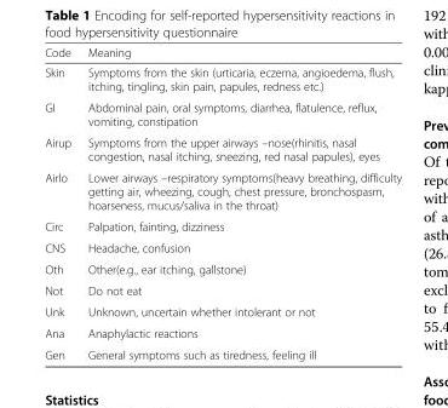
<table><thead><tr><td>Code</td><td>Meaning</td></tr></thead><tbody><tr><td>Skin</td><td>Symptoms from the skin (urticaria, eczema, angioedema, flush, itching, tingling, skin pain, papules, redness etc.)</td></tr><tr><td>GI</td><td>Abdominal pain, oral symptoms, diarrhea, flatulence, reflux, vomiting, constipation</td></tr><tr><td>Airup</td><td>Symptoms from the upper airways –nose(rhinitis, nasal congestion, nasal itching, sneezing, red nasal papules), eyes</td></tr><tr><td>Airlo</td><td>Lower airways –respiratory symptoms(heavy breathing, difficulty getting air, wheezing, cough, chest pressure, bronchospasm, hoarseness, mucus/saliva in the throat)</td></tr><tr><td>Circ</td><td>Palpation, fainting, dizziness</td></tr><tr><td>CNS</td><td>Headache, confusion</td></tr><tr><td>Oth</td><td>Other(e.g., ear itching, gallstone)</td></tr><tr><td>Not</td><td>Do not eat</td></tr><tr><td>Unk</td><td>Unknown, uncertain whether intolerant or not</td></tr><tr><td>Ana</td><td>Anaphylactic reactions</td></tr><tr><td>Gen</td><td>General symptoms such as tiredness, feeling ill</td></tr></tbody></table>